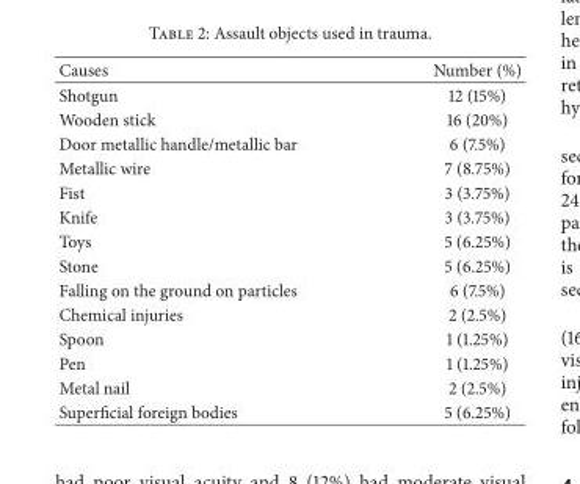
<table><thead><tr><td>Causes</td><td>Number (%)</td></tr></thead><tbody><tr><td>Shotgun</td><td>12 (15%)</td></tr><tr><td>Wooden stick</td><td>16 (20%)</td></tr><tr><td>Door metallic handle/metallic bar</td><td>6 (7.5%)</td></tr><tr><td>Metallic wire</td><td>7 (8.75%)</td></tr><tr><td>Fist</td><td>3 (3.75%)</td></tr><tr><td>Knife</td><td>3 (3.75%)</td></tr><tr><td>Toys</td><td>5 (6.25%)</td></tr><tr><td>Stone</td><td>5 (6.25%)</td></tr><tr><td>Falling on the ground on particles</td><td>6 (7.5%)</td></tr><tr><td>Chemical injuries</td><td>2 (2.5%)</td></tr><tr><td>Spoon</td><td>1 (1.25%)</td></tr><tr><td>Pen</td><td>1 (1.25%)</td></tr><tr><td>Metal nail</td><td>2 (2.5%)</td></tr><tr><td>Superficial foreign bodies</td><td>5 (6.25%)</td></tr></tbody></table>